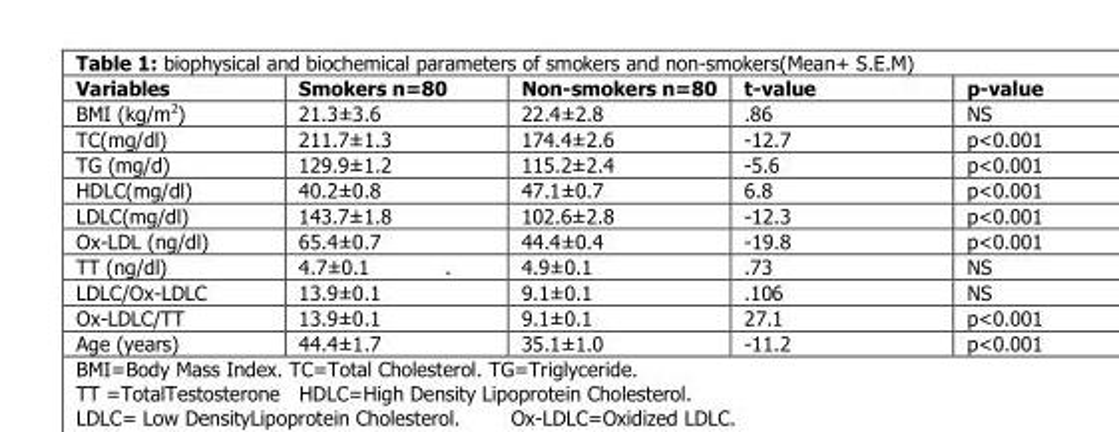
<table><thead><tr><td>Variables</td><td>Smokers n=80</td><td>Non-smokers n=80</td><td>t-value</td><td>p-value</td></tr></thead><tbody><tr><td>BMI (kg/m<sup>2</sup>)</td><td>21.3±3.6</td><td>22.4±2.8</td><td>.86</td><td>NS</td></tr><tr><td>TC(mg/dl)</td><td>211.7±1.3</td><td>174.4±2.6</td><td>-12.7</td><td>p&lt;0.001</td></tr><tr><td>TG (mg/d)</td><td>129.9±1.2</td><td>115.2±2.4</td><td>-5.6</td><td>p&lt;0.001</td></tr><tr><td>HDLC(mg/dl)</td><td>40.2±0.8</td><td>47.1±0.7</td><td>6.8</td><td>p&lt;0.001</td></tr><tr><td>LDLC(mg/dl)</td><td>143.7±1.8</td><td>102.6±2.8</td><td>-12.3</td><td>p&lt;0.001</td></tr><tr><td>Ox-LDL (ng/dl)</td><td>65.4±0.7</td><td>44.4±0.4</td><td>-19.8</td><td>p&lt;0.001</td></tr><tr><td>TT (ng/dl)</td><td>4.7±0.1 .</td><td>4.9±0.1</td><td>.73</td><td>NS</td></tr><tr><td>LDLC/Ox-LDLC</td><td>13.9±0.1</td><td>9.1±0.1</td><td>.106</td><td>NS</td></tr><tr><td>Ox-LDLC/TT</td><td>13.9±0.1</td><td>9.1±0.1</td><td>27.1</td><td>p&lt;0.001</td></tr><tr><td>Age (years)</td><td>44.4±1.7</td><td>35.1±1.0</td><td>-11.2</td><td>p&lt;0.001</td></tr></tbody></table>